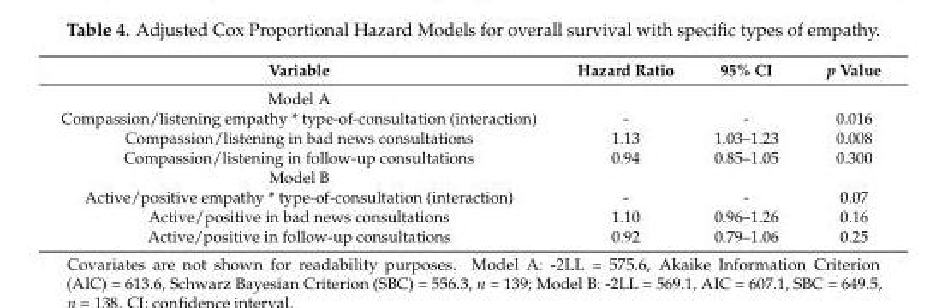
<table><thead><tr><td>Variable</td><td>Hazard Ratio</td><td>95% CI</td><td>p Value</td></tr></thead><tbody><tr><td colspan="4">Model A</td></tr><tr><td>Compassion/listening empathy * type-of-consultation (interaction)</td><td>-</td><td>-</td><td>0.016</td></tr><tr><td>Compassion/listening in bad news consultations</td><td>1.13</td><td>1.03–1.23</td><td>0.008</td></tr><tr><td>Compassion/listening in follow-up consultations</td><td>0.94</td><td>0.85–1.05</td><td>0.300</td></tr><tr><td colspan="4">Model B</td></tr><tr><td>Active/positive empathy * type-of-consultation (interaction)</td><td>-</td><td>-</td><td>0.07</td></tr><tr><td>Active/positive in bad news consultations</td><td>1.10</td><td>0.96–1.26</td><td>0.16</td></tr><tr><td>Active/positive in follow-up consultations</td><td>0.92</td><td>0.79–1.06</td><td>0.25</td></tr></tbody></table>